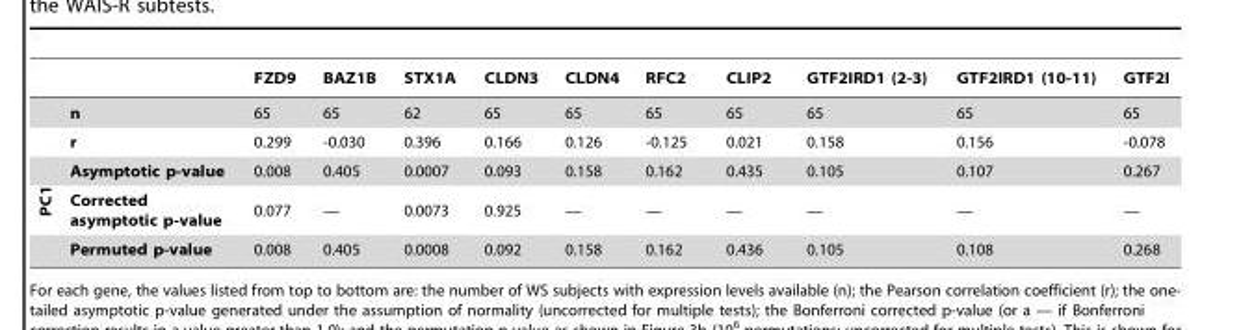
<table><thead><tr><td></td><td>FZD9</td><td>BAZ1B</td><td>STX1A</td><td>CLDN3</td><td>CLDN4</td><td>RFC2</td><td>CLIP2</td><td>GTF2IRD1 (2-3)</td><td>GTF2IRD1 (10-11)</td><td>GTF2I</td></tr></thead><tbody><tr><td>n</td><td>65</td><td>65</td><td>62</td><td>65</td><td>65</td><td>65</td><td>65</td><td>65</td><td>65</td><td>65</td></tr><tr><td>r</td><td>0.299</td><td>-0.030</td><td>0.396</td><td>0.166</td><td>0.126</td><td>-0.125</td><td>0.021</td><td>0.158</td><td>0.156</td><td>-0.078</td></tr><tr><td>Asymptotic p-value</td><td>0.008</td><td>0.405</td><td>0.0007</td><td>0.093</td><td>0.158</td><td>0.162</td><td>0.435</td><td>0.105</td><td>0.107</td><td>0.267</td></tr><tr><td>Corrected asymptotic p-value</td><td>0.077</td><td>—</td><td>0.0073</td><td>0.925</td><td>—</td><td>—</td><td>—</td><td>—</td><td>—</td><td>—</td></tr><tr><td>Permuted p-value</td><td>0.008</td><td>0.405</td><td>0.0008</td><td>0.092</td><td>0.158</td><td>0.162</td><td>0.436</td><td>0.105</td><td>0.108</td><td>0.268</td></tr></tbody></table>